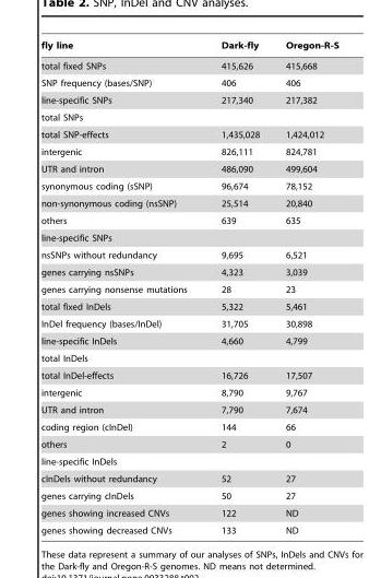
<table><thead><tr><td>fly line</td><td>Dark-fly</td><td>Oregon-R-S</td></tr></thead><tbody><tr><td>total fixed SNPs</td><td>415,626</td><td>415,668</td></tr><tr><td>SNP frequency (bases/SNP)</td><td>406</td><td>406</td></tr><tr><td>line-specific SNPs</td><td>217,340</td><td>217,382</td></tr><tr><td colspan="3">total SNPs</td></tr><tr><td>total SNP-effects</td><td>1,435,028</td><td>1,424,012</td></tr><tr><td>intergenic</td><td>826,111</td><td>824,781</td></tr><tr><td>UTR and intron</td><td>486,090</td><td>499,604</td></tr><tr><td>synonymous coding (sSNP)</td><td>96,674</td><td>78,152</td></tr><tr><td>non-synonymous coding (nsSNP)</td><td>25,514</td><td>20,840</td></tr><tr><td>others</td><td>639</td><td>635</td></tr><tr><td colspan="3">line-specific SNPs</td></tr><tr><td>nsSNPs without redundancy</td><td>9,695</td><td>6,521</td></tr><tr><td>genes carrying nsSNPs</td><td>4,323</td><td>3,039</td></tr><tr><td>genes carrying nonsense mutations</td><td>28</td><td>23</td></tr><tr><td>total fixed InDels</td><td>5,322</td><td>5,461</td></tr><tr><td>InDel frequency (bases/InDel)</td><td>31,705</td><td>30,898</td></tr><tr><td>line-specific InDels</td><td>4,660</td><td>4,799</td></tr><tr><td colspan="3">total InDels</td></tr><tr><td>total InDel-effects</td><td>16,726</td><td>17,507</td></tr><tr><td>intergenic</td><td>8,790</td><td>9,767</td></tr><tr><td>UTR and intron</td><td>7,790</td><td>7,674</td></tr><tr><td>coding region (cInDel)</td><td>144</td><td>66</td></tr><tr><td>others</td><td>2</td><td>0</td></tr><tr><td colspan="3">line-specific InDels</td></tr><tr><td>cInDels without redundancy</td><td>52</td><td>27</td></tr><tr><td>genes carrying cInDels</td><td>50</td><td>27</td></tr><tr><td>genes showing increased CNVs</td><td>122</td><td>ND</td></tr><tr><td>genes showing decreased CNVs</td><td>133</td><td>ND</td></tr></tbody></table>